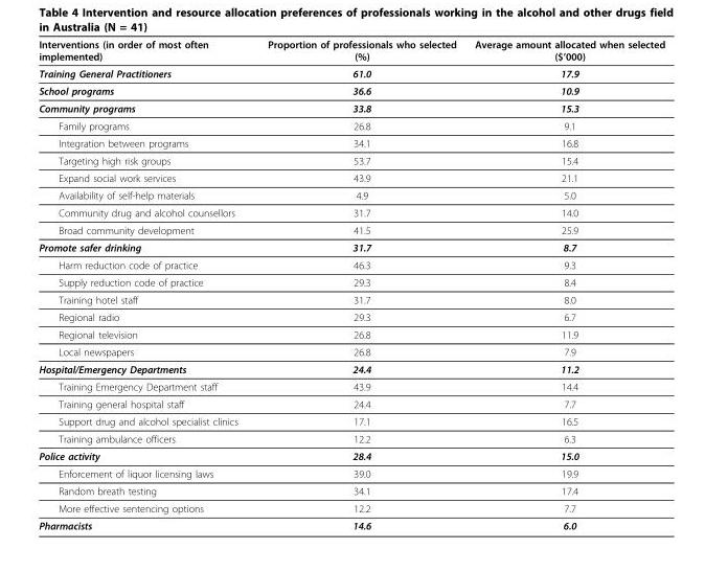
<table><thead><tr><td>Interventions (in order of most often implemented)</td><td>Proportion of professionals who selected (%)</td><td>Average amount allocated when selected ($’000)</td></tr></thead><tbody><tr><td>Training General Practitioners</td><td>61.0</td><td>17.9</td></tr><tr><td>School programs</td><td>36.6</td><td>10.9</td></tr><tr><td>Community programs</td><td>33.8</td><td>15.3</td></tr><tr><td>Family programs</td><td>26.8</td><td>9.1</td></tr><tr><td>Integration between programs</td><td>34.1</td><td>16.8</td></tr><tr><td>Targeting high risk groups</td><td>53.7</td><td>15.4</td></tr><tr><td>Expand social work services</td><td>43.9</td><td>21.1</td></tr><tr><td>Availability of self-help materials</td><td>4.9</td><td>5.0</td></tr><tr><td>Community drug and alcohol counsellors</td><td>31.7</td><td>14.0</td></tr><tr><td>Broad community development</td><td>41.5</td><td>25.9</td></tr><tr><td>Promote safer drinking</td><td>31.7</td><td>8.7</td></tr><tr><td>Harm reduction code of practice</td><td>46.3</td><td>9.3</td></tr><tr><td>Supply reduction code of practice</td><td>29.3</td><td>8.4</td></tr><tr><td>Training hotel staff</td><td>31.7</td><td>8.0</td></tr><tr><td>Regional radio</td><td>29.3</td><td>6.7</td></tr><tr><td>Regional television</td><td>26.8</td><td>11.9</td></tr><tr><td>Local newspapers</td><td>26.8</td><td>7.9</td></tr><tr><td>Hospital/Emergency Departments</td><td>24.4</td><td>11.2</td></tr><tr><td>Training Emergency Department staff</td><td>43.9</td><td>14.4</td></tr><tr><td>Training general hospital staff</td><td>24.4</td><td>7.7</td></tr><tr><td>Support drug and alcohol specialist clinics</td><td>17.1</td><td>16.5</td></tr><tr><td>Training ambulance officers</td><td>12.2</td><td>6.3</td></tr><tr><td>Police activity</td><td>28.4</td><td>15.0</td></tr><tr><td>Enforcement of liquor licensing laws</td><td>39.0</td><td>19.9</td></tr><tr><td>Random breath testing</td><td>34.1</td><td>17.4</td></tr><tr><td>More effective sentencing options</td><td>12.2</td><td>7.7</td></tr><tr><td>Pharmacists</td><td>14.6</td><td>6.0</td></tr></tbody></table>